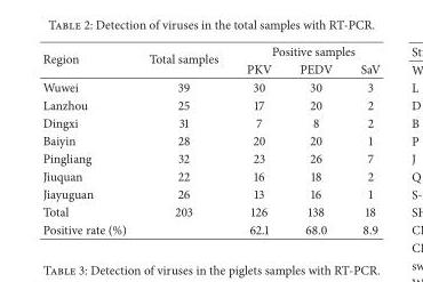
<table><thead><tr><td rowspan="2">Region</td><td rowspan="2">Total samples</td><td colspan="3">Positive samples</td></tr><tr><td>PKV</td><td>PEDV</td><td>SaV</td></tr></thead><tbody><tr><td>Wuwei</td><td>39</td><td>30</td><td>30</td><td>3</td></tr><tr><td>Lanzhou</td><td>25</td><td>17</td><td>20</td><td>2</td></tr><tr><td>Dingxi</td><td>31</td><td>7</td><td>8</td><td>2</td></tr><tr><td>Baiyin</td><td>28</td><td>20</td><td>20</td><td>1</td></tr><tr><td>Pingliang</td><td>32</td><td>23</td><td>26</td><td>7</td></tr><tr><td>Jiuquan</td><td>22</td><td>16</td><td>18</td><td>2</td></tr><tr><td>Jiayuguan</td><td>26</td><td>13</td><td>16</td><td>1</td></tr><tr><td>Total</td><td>203</td><td>126</td><td>138</td><td>18</td></tr><tr><td>Positive rate (%)</td><td></td><td>62.1</td><td>68.0</td><td>8.9</td></tr></tbody></table>